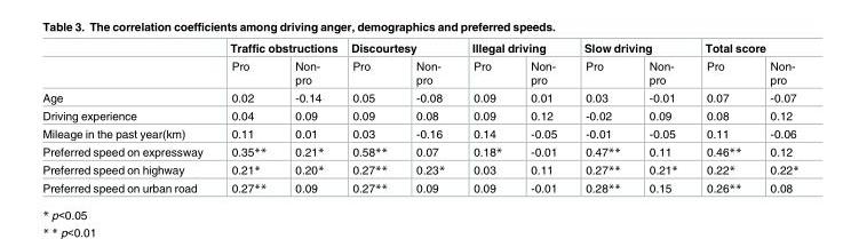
<table><thead><tr><td rowspan="2"></td><td colspan="2">Traffic obstructions</td><td colspan="2">Discourtesy</td><td colspan="2">Illegal driving</td><td colspan="2">Slow driving</td><td colspan="2">Total score</td></tr><tr><td>Pro</td><td>Non- pro</td><td>Pro</td><td>Non- pro</td><td>Pro</td><td>Non- pro</td><td>Pro</td><td>Non- pro</td><td>Pro</td><td>Non- pro</td></tr></thead><tbody><tr><td>Age</td><td>0.02</td><td>-0.14</td><td>0.05</td><td>-0.08</td><td>0.09</td><td>0.01</td><td>0.03</td><td>-0.01</td><td>0.07</td><td>-0.07</td></tr><tr><td>Driving experience</td><td>0.04</td><td>0.09</td><td>0.09</td><td>0.08</td><td>0.09</td><td>0.12</td><td>-0.02</td><td>0.09</td><td>0.08</td><td>0.12</td></tr><tr><td>Mileage in the past year(km)</td><td>0.11</td><td>0.01</td><td>0.03</td><td>-0.16</td><td>0.14</td><td>-0.05</td><td>-0.01</td><td>-0.05</td><td>0.11</td><td>-0.06</td></tr><tr><td>Preferred speed on expressway</td><td>0.35**</td><td>0.21*</td><td>0.58**</td><td>0.07</td><td>0.18*</td><td>-0.01</td><td>0.47**</td><td>0.11</td><td>0.46**</td><td>0.12</td></tr><tr><td>Preferred speed on highway</td><td>0.21*</td><td>0.20*</td><td>0.27**</td><td>0.23*</td><td>0.03</td><td>0.11</td><td>0.27**</td><td>0.21*</td><td>0.22*</td><td>0.22*</td></tr><tr><td>Preferred speed on urban road</td><td>0.27**</td><td>0.09</td><td>0.27**</td><td>0.09</td><td>0.09</td><td>-0.01</td><td>0.28**</td><td>0.15</td><td>0.26**</td><td>0.08</td></tr></tbody></table>